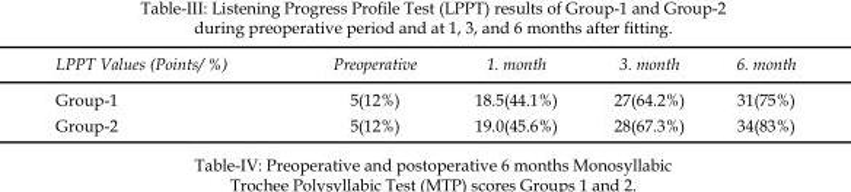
<table><thead><tr><td>LPPT Values (Points/ %)</td><td>Preoperative</td><td>1. month</td><td>3. month</td><td>6. month</td></tr></thead><tbody><tr><td>Group-1</td><td>5(12%)</td><td>18.5(44.1%)</td><td>27(64.2%)</td><td>31(75%)</td></tr><tr><td>Group-2</td><td>5(12%)</td><td>19.0(45.6%)</td><td>28(67.3%)</td><td>34(83%)</td></tr></tbody></table>